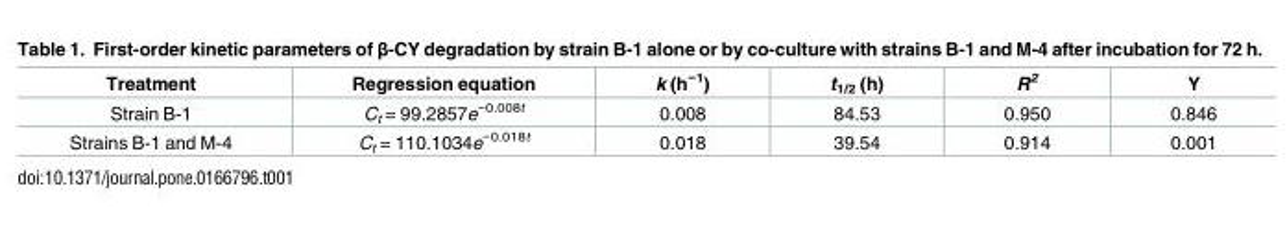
<table><thead><tr><td>Treatment</td><td>Regression equation</td><td>k (h<sup>−1</sup>)</td><td>t<sub>1/2</sub> (h)</td><td>R<sup>2</sup></td><td>Y</td></tr></thead><tbody><tr><td>Strain B-1</td><td>C<sub>t</sub> = 99.2857e<sup>−0.008t</sup></td><td>0.008</td><td>84.53</td><td>0.950</td><td>0.846</td></tr><tr><td>Strains B-1 and M-4</td><td>C<sub>t</sub> = 110.1034e<sup>−0.018t</sup></td><td>0.018</td><td>39.54</td><td>0.914</td><td>0.001</td></tr></tbody></table>